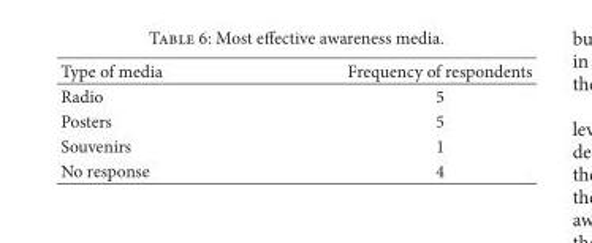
<table><thead><tr><td>Type of media</td><td>Frequency of respondents</td></tr></thead><tbody><tr><td>Radio</td><td>5</td></tr><tr><td>Posters</td><td>5</td></tr><tr><td>Souvenirs</td><td>1</td></tr><tr><td>No response</td><td>4</td></tr></tbody></table>